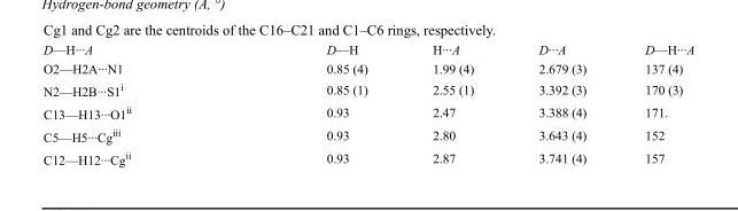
<table><tbody><tr><td>D—H···A</td><td>D—H</td><td>H···A</td><td>D···A</td><td>D—H···A</td></tr><tr><td>O2—H2A···N1</td><td>0.85 (4)</td><td>1.99 (4)</td><td>2.679 (3)</td><td>137 (4)</td></tr><tr><td>N2—H2B···S1<sup>i</sup></td><td>0.85 (1)</td><td>2.55 (1)</td><td>3.392 (3)</td><td>170 (3)</td></tr><tr><td>C13—H13···O1<sup>ii</sup></td><td>0.93</td><td>2.47</td><td>3.388 (4)</td><td>171.</td></tr><tr><td>C5—H5···Cg<sup>iii</sup></td><td>0.93</td><td>2.80</td><td>3.643 (4)</td><td>152</td></tr><tr><td>C12—H12···Cg<sup>ii</sup></td><td>0.93</td><td>2.87</td><td>3.741 (4)</td><td>157</td></tr></tbody></table>